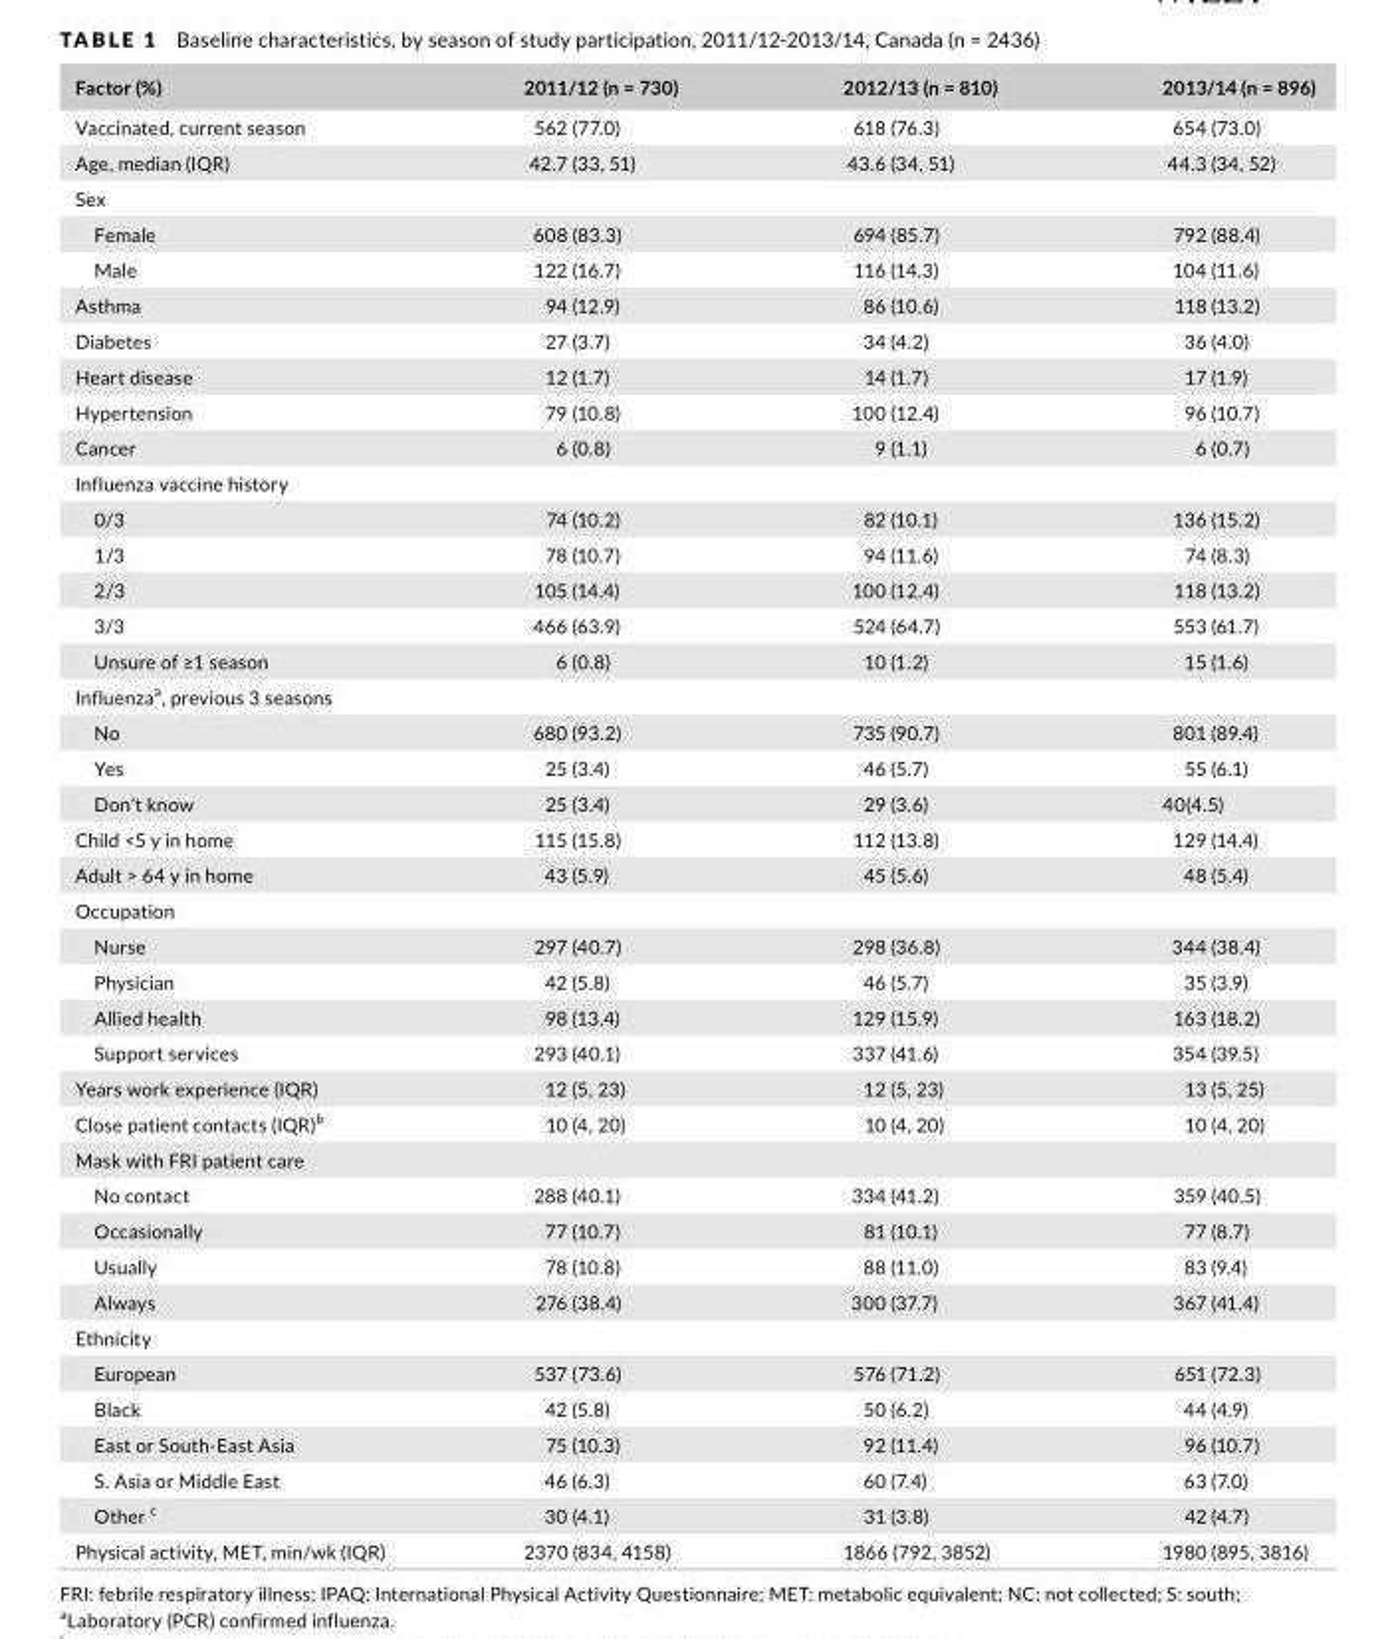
<table><thead><tr><td>Factor (%)</td><td>2011/12 (n = 730)</td><td>2012/13 (n = 810)</td><td>2013/14 (n = 896)</td></tr></thead><tbody><tr><td>Vaccinated, current season</td><td>562 (77.0)</td><td>618 (76.3)</td><td>654 (73.0)</td></tr><tr><td>Age, median (IQR)</td><td>42.7 (33, 51)</td><td>43.6 (34, 51)</td><td>44.3 (34, 52)</td></tr><tr><td colspan="4">Sex</td></tr><tr><td>Female</td><td>608 (83.3)</td><td>694 (85.7)</td><td>792 (88.4)</td></tr><tr><td>Male</td><td>122 (16.7)</td><td>116 (14.3)</td><td>104 (11.6)</td></tr><tr><td>Asthma</td><td>94 (12.9)</td><td>86 (10.6)</td><td>118 (13.2)</td></tr><tr><td>Diabetes</td><td>27 (3.7)</td><td>34 (4.2)</td><td>36 (4.0)</td></tr><tr><td>Heart disease</td><td>12 (1.7)</td><td>14 (1.7)</td><td>17 (1.9)</td></tr><tr><td>Hypertension</td><td>79 (10.8)</td><td>100 (12.4)</td><td>96 (10.7)</td></tr><tr><td>Cancer</td><td>6 (0.8)</td><td>9 (1.1)</td><td>6 (0.7)</td></tr><tr><td colspan="4">Influenza vaccine history</td></tr><tr><td>0/3</td><td>74 (10.2)</td><td>82 (10.1)</td><td>136 (15.2)</td></tr><tr><td>1/3</td><td>78 (10.7)</td><td>94 (11.6)</td><td>74 (8.3)</td></tr><tr><td>2/3</td><td>105 (14.4)</td><td>100 (12.4)</td><td>118 (13.2)</td></tr><tr><td>3/3</td><td>466 (63.9)</td><td>524 (64.7)</td><td>553 (61.7)</td></tr><tr><td>Unsure of ≥1 season</td><td>6 (0.8)</td><td>10 (1.2)</td><td>15 (1.6)</td></tr><tr><td colspan="4">Influenza<sup>a</sup>, previous 3 seasons</td></tr><tr><td>No</td><td>680 (93.2)</td><td>735 (90.7)</td><td>801 (89.4)</td></tr><tr><td>Yes</td><td>25 (3.4)</td><td>46 (5.7)</td><td>55 (6.1)</td></tr><tr><td>Don’t know</td><td>25 (3.4)</td><td>29 (3.6)</td><td>40(4.5)</td></tr><tr><td>Child &lt;5 y in home</td><td>115 (15.8)</td><td>112 (13.8)</td><td>129 (14.4)</td></tr><tr><td>Adult &gt; 64 y in home</td><td>43 (5.9)</td><td>45 (5.6)</td><td>48 (5.4)</td></tr><tr><td colspan="4">Occupation</td></tr><tr><td>Nurse</td><td>297 (40.7)</td><td>298 (36.8)</td><td>344 (38.4)</td></tr><tr><td>Physician</td><td>42 (5.8)</td><td>46 (5.7)</td><td>35 (3.9)</td></tr><tr><td>Allied health</td><td>98 (13.4)</td><td>129 (15.9)</td><td>163 (18.2)</td></tr><tr><td>Support services</td><td>293 (40.1)</td><td>337 (41.6)</td><td>354 (39.5)</td></tr><tr><td>Years work experience (IQR)</td><td>12 (5, 23)</td><td>12 (5, 23)</td><td>13 (5, 25)</td></tr><tr><td>Close patient contacts (IQR)<sup>b</sup></td><td>10 (4, 20)</td><td>10 (4, 20)</td><td>10 (4, 20)</td></tr><tr><td colspan="4">Mask with FRI patient care</td></tr><tr><td>No contact</td><td>288 (40.1)</td><td>334 (41.2)</td><td>359 (40.5)</td></tr><tr><td>Occasionally</td><td>77 (10.7)</td><td>81 (10.1)</td><td>77 (8.7)</td></tr><tr><td>Usually</td><td>78 (10.8)</td><td>88 (11.0)</td><td>83 (9.4)</td></tr><tr><td>Always</td><td>276 (38.4)</td><td>300 (37.7)</td><td>367 (41.4)</td></tr><tr><td colspan="4">Ethnicity</td></tr><tr><td>European</td><td>537 (73.6)</td><td>576 (71.2)</td><td>651 (72.3)</td></tr><tr><td>Black</td><td>42 (5.8)</td><td>50 (6.2)</td><td>44 (4.9)</td></tr><tr><td>East or South- East Asia</td><td>75 (10.3)</td><td>92 (11.4)</td><td>96 (10.7)</td></tr><tr><td>S. Asia or Middle East</td><td>46 (6.3)</td><td>60 (7.4)</td><td>63 (7.0)</td></tr><tr><td>Other c</td><td>30 (4.1)</td><td>31 (3.8)</td><td>42 (4.7)</td></tr><tr><td>Physical activity, MET, min/wk (IQR)</td><td>2370 (834, 4158)</td><td>1866 (792, 3852)</td><td>1980 (895, 3816)</td></tr></tbody></table>